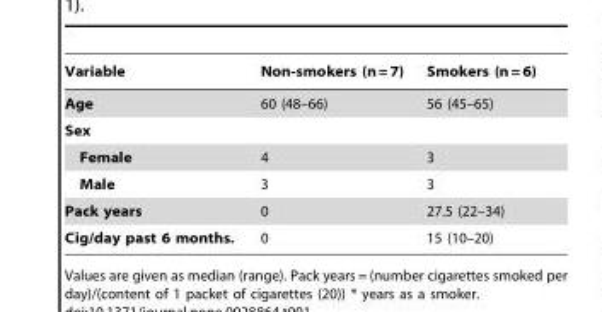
<table><thead><tr><td>Variable</td><td>Non-smokers (n = 7)</td><td>Smokers (n = 6)</td></tr></thead><tbody><tr><td>Age</td><td>60 (48–66)</td><td>56 (45–65)</td></tr><tr><td colspan="3">Sex</td></tr><tr><td>Female</td><td>4</td><td>3</td></tr><tr><td>Male</td><td>3</td><td>3</td></tr><tr><td>Pack years</td><td>0</td><td>27.5 (22–34)</td></tr><tr><td>Cig/day past 6 months.</td><td>0</td><td>15 (10–20)</td></tr></tbody></table>